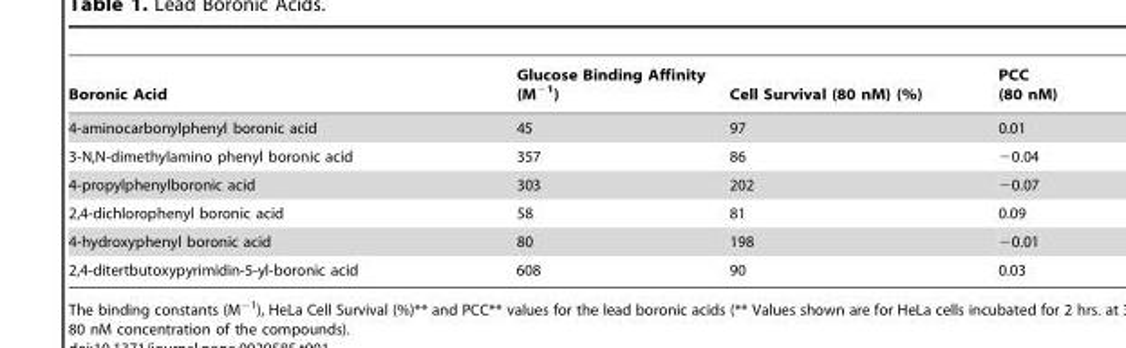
<table><thead><tr><td>Boronic Acid</td><td>Glucose Binding Affinity (M<sup>−1</sup>)</td><td>Cell Survival (80 nM) (%)</td><td>PCC (80 nM)</td></tr></thead><tbody><tr><td>4-aminocarbonylphenyl boronic acid</td><td>45</td><td>97</td><td>0.01</td></tr><tr><td>3-N,N-dimethylamino phenyl boronic acid</td><td>357</td><td>86</td><td>−0.04</td></tr><tr><td>4-propylphenylboronic acid</td><td>303</td><td>202</td><td>−0.07</td></tr><tr><td>2,4-dichlorophenyl boronic acid</td><td>58</td><td>81</td><td>0.09</td></tr><tr><td>4-hydroxyphenyl boronic acid</td><td>80</td><td>198</td><td>−0.01</td></tr><tr><td>2,4-ditertbutoxypyrimidin-5-yl-boronic acid</td><td>608</td><td>90</td><td>0.03</td></tr></tbody></table>